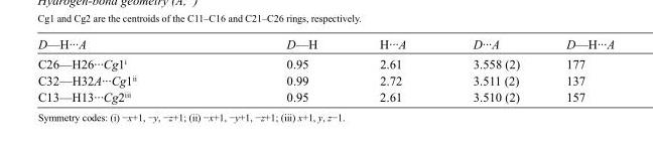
<table><tbody><tr><td>D—H···A</td><td>D—H</td><td>H···A</td><td>D···A</td><td>D—H···A</td></tr><tr><td>C26—H26···Cg1<sup>i</sup></td><td>0.95</td><td>2.61</td><td>3.558 (2)</td><td>177</td></tr><tr><td>C32—H32A···Cg1<sup>ii</sup></td><td>0.99</td><td>2.72</td><td>3.511 (2)</td><td>137</td></tr><tr><td>C13—H13···Cg2<sup>iii</sup></td><td>0.95</td><td>2.61</td><td>3.510 (2)</td><td>157</td></tr></tbody></table>